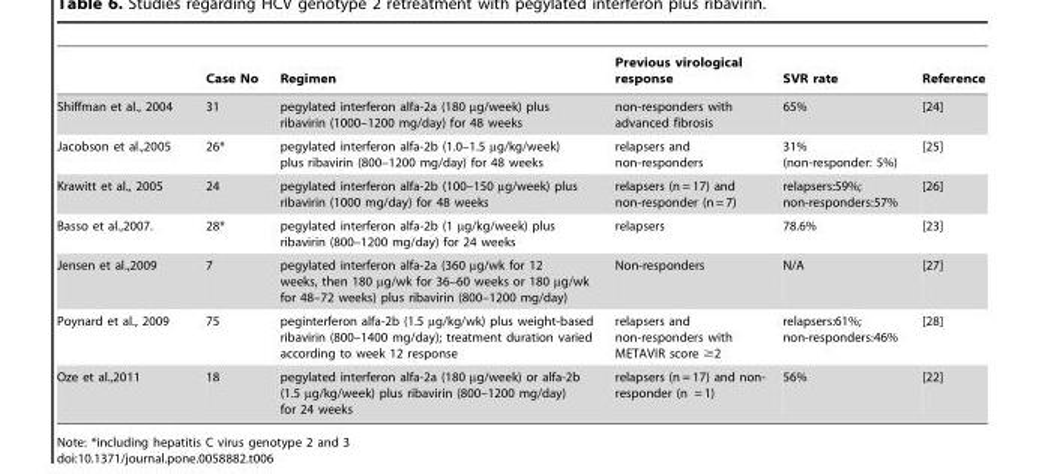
<table><thead><tr><td></td><td>Case No</td><td>Regimen</td><td>Previous virological response</td><td>SVR rate</td><td>Reference</td></tr></thead><tbody><tr><td>Shiffman et al., 2004</td><td>31</td><td>pegylated interferon alfa-2a (180 µg/week) plus ribavirin (1000–1200 mg/day) for 48 weeks</td><td>non-responders with advanced fibrosis</td><td>65%</td><td>[24]</td></tr><tr><td>Jacobson et al.,2005</td><td>26*</td><td>pegylated interferon alfa-2b (1.0–1.5 µg/kg/week) plus ribavirin (800–1200 mg/day) for 48 weeks</td><td>relapsers and non-responders</td><td>31% (non-responder: 5%)</td><td>[25]</td></tr><tr><td>Krawitt et al., 2005</td><td>24</td><td>pegylated interferon alfa-2b (100–150 µg/week) plus ribavirin (1000 mg/day) for 48 weeks</td><td>relapsers (n = 17) and non-responder (n = 7)</td><td>relapsers:59%; non-responders:57%</td><td>[26]</td></tr><tr><td>Basso et al.,2007.</td><td>28*</td><td>pegylated interferon alfa-2b (1 µg/kg/week) plus ribavirin (800–1200 mg/day) for 24 weeks</td><td>relapsers</td><td>78.6%</td><td>[23]</td></tr><tr><td>Jensen et al.,2009</td><td>7</td><td>pegylated interferon alfa-2a (360 µg/wk for 12 weeks, then 180 µg/wk for 36–60 weeks or 180 µg/wk for 48–72 weeks) plus ribavirin (800–1200 mg/day)</td><td>Non-responders</td><td>N/A</td><td>[27]</td></tr><tr><td>Poynard et al., 2009</td><td>75</td><td>peginterferon alfa-2b (1.5 µg/kg/wk) plus weight-based ribavirin (800–1400 mg/day); treatment duration varied according to week 12 response</td><td>relapsers and non-responders with METAVIR score ≥2</td><td>relapsers:61%; non-responders:46%</td><td>[28]</td></tr><tr><td>Oze et al.,2011</td><td>18</td><td>pegylated interferon alfa-2a (180 µg/week) or alfa-2b (1.5 µg/kg/week) plus ribavirin (800–1200 mg/day) for 24 weeks</td><td>relapsers (n = 17) and non- responder (n = 1)</td><td>56%</td><td>[22]</td></tr></tbody></table>